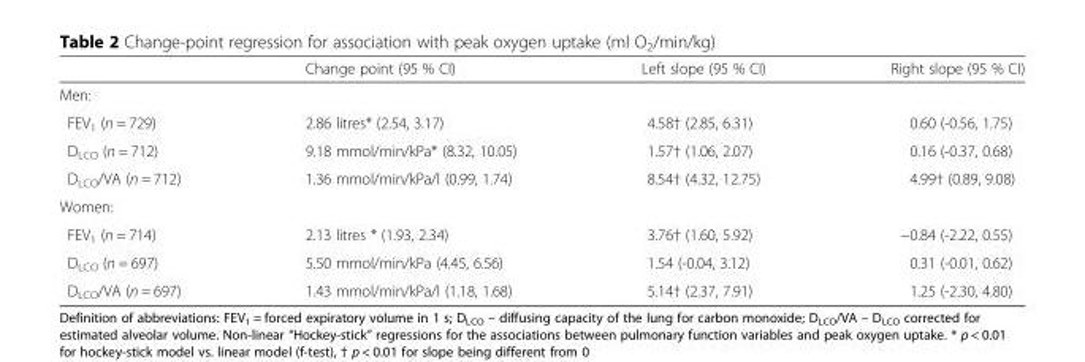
<table><thead><tr><td></td><td>Change point (95 % CI)</td><td>Left slope (95 % CI)</td><td>Right slope (95 % CI)</td></tr></thead><tbody><tr><td colspan="4">Men:</td></tr><tr><td>FEV<sub>1</sub> (n = 729)</td><td>2.86 litres* (2.54, 3.17)</td><td>4.58† (2.85, 6.31)</td><td>0.60 (-0.56, 1.75)</td></tr><tr><td>D<sub>LCO</sub> (n = 712)</td><td>9.18 mmol/min/kPa* (8.32, 10.05)</td><td>1.57† (1.06, 2.07)</td><td>0.16 (-0.37, 0.68)</td></tr><tr><td>D<sub>LCO</sub>/VA (n = 712)</td><td>1.36 mmol/min/kPa/l (0.99, 1.74)</td><td>8.54† (4.32, 12.75)</td><td>4.99† (0.89, 9.08)</td></tr><tr><td colspan="4">Women:</td></tr><tr><td>FEV<sub>1</sub> (n = 714)</td><td>2.13 litres * (1.93, 2.34)</td><td>3.76† (1.60, 5.92)</td><td>−0.84 (-2.22, 0.55)</td></tr><tr><td>D<sub>LCO</sub> (n = 697)</td><td>5.50 mmol/min/kPa (4.45, 6.56)</td><td>1.54 (-0.04, 3.12)</td><td>0.31 (-0.01, 0.62)</td></tr><tr><td>D<sub>LCO</sub>/VA (n = 697)</td><td>1.43 mmol/min/kPa/l (1.18, 1.68)</td><td>5.14† (2.37, 7.91)</td><td>1.25 (-2.30, 4.80)</td></tr></tbody></table>